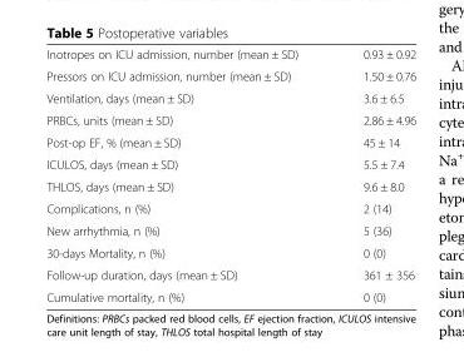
<table><tbody><tr><td>Inotropes on ICU admission, number (mean ± SD)</td><td>0.93 ± 0.92</td></tr><tr><td>Pressors on ICU admission, number (mean ± SD)</td><td>1.50 ± 0.76</td></tr><tr><td>Ventilation, days (mean ± SD)</td><td>3.6 ± 6.5</td></tr><tr><td>PRBCs, units (mean ± SD)</td><td>2.86 ± 4.96</td></tr><tr><td>Post-op EF, % (mean ± SD)</td><td>45 ± 14</td></tr><tr><td>ICULOS, days (mean ± SD)</td><td>5.5 ± 7.4</td></tr><tr><td>THLOS, days (mean ± SD)</td><td>9.6 ± 8.0</td></tr><tr><td>Complications, n (%)</td><td>2 (14)</td></tr><tr><td>New arrhythmia, n (%)</td><td>5 (36)</td></tr><tr><td>30-days Mortality, n (%)</td><td>0 (0)</td></tr><tr><td>Follow-up duration, days (mean ± SD)</td><td>361 ± 356</td></tr><tr><td>Cumulative mortality, n (%)</td><td>0 (0)</td></tr></tbody></table>